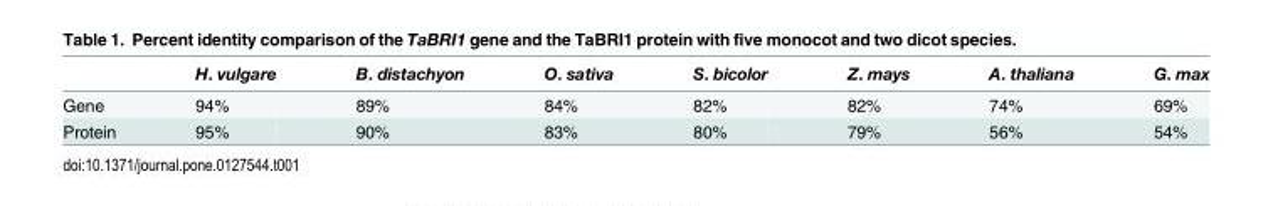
<table><thead><tr><td></td><td>H. vulgare</td><td>B. distachyon</td><td>O. sativa</td><td>S. bicolor</td><td>Z. mays</td><td>A. thaliana</td><td>G. max</td></tr></thead><tbody><tr><td>Gene</td><td>94%</td><td>89%</td><td>84%</td><td>82%</td><td>82%</td><td>74%</td><td>69%</td></tr><tr><td>Protein</td><td>95%</td><td>90%</td><td>83%</td><td>80%</td><td>79%</td><td>56%</td><td>54%</td></tr></tbody></table>